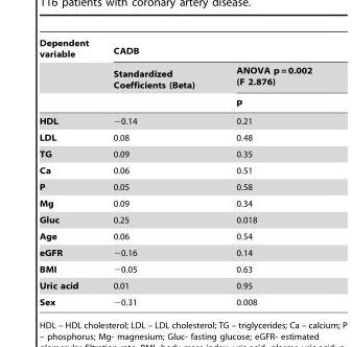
<table><thead><tr><td rowspan="3">Dependent variable</td><td colspan="2">CADB</td></tr><tr><td rowspan="2">Standardized Coefficients (Beta)</td><td rowspan="2">ANOVA p = 0.002 (F 2.876) p</td></tr><tr></tr></thead><tbody><tr><td>HDL</td><td>−0.14</td><td>0.21</td></tr><tr><td>LDL</td><td>0.08</td><td>0.48</td></tr><tr><td>TG</td><td>0.09</td><td>0.35</td></tr><tr><td>Ca</td><td>0.06</td><td>0.51</td></tr><tr><td>P</td><td>0.05</td><td>0.58</td></tr><tr><td>Mg</td><td>0.09</td><td>0.34</td></tr><tr><td>Gluc</td><td>0.25</td><td>0.018</td></tr><tr><td>Age</td><td>0.06</td><td>0.54</td></tr><tr><td>eGFR</td><td>−0.16</td><td>0.14</td></tr><tr><td>BMI</td><td>−0.05</td><td>0.63</td></tr><tr><td>Uric acid</td><td>0.01</td><td>0.95</td></tr><tr><td>Sex</td><td>−0.31</td><td>0.008</td></tr></tbody></table>